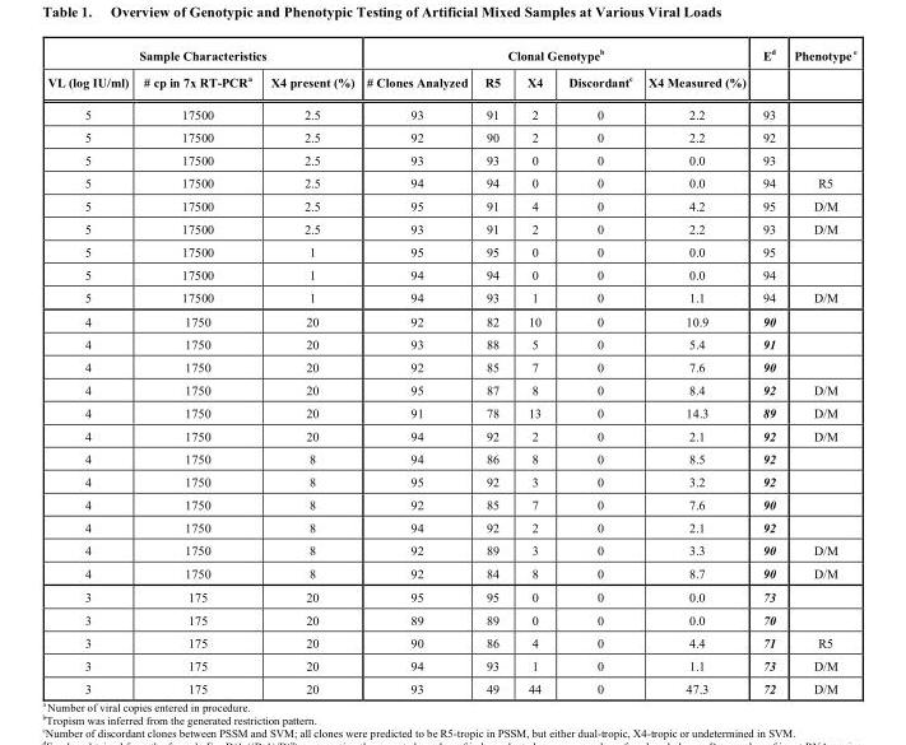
<table><thead><tr><td colspan="3">Sample Characteristics</td><td colspan="5">Clonal Genotype<sup>b</sup></td><td rowspan="2">E<sup>d</sup></td><td rowspan="2">Phenotype <sup>e</sup></td></tr><tr><td>VL (log IU/ml)</td><td># cp in 7x RT-PCR<sup>a</sup></td><td>X4 present (%)</td><td># Clones Analyzed</td><td>R5</td><td>X4</td><td>Discordant<sup>c</sup></td><td>X4 Measured (%)</td></tr></thead><tbody><tr><td>5</td><td>17500</td><td>2.5</td><td>93</td><td>91</td><td>2</td><td>0</td><td>2.2</td><td>93</td><td></td></tr><tr><td>5</td><td>17500</td><td>2.5</td><td>92</td><td>90</td><td>2</td><td>0</td><td>2.2</td><td>92</td><td></td></tr><tr><td>5</td><td>17500</td><td>2.5</td><td>93</td><td>93</td><td>0</td><td>0</td><td>0.0</td><td>93</td><td></td></tr><tr><td>5</td><td>17500</td><td>2.5</td><td>94</td><td>94</td><td>0</td><td>0</td><td>0.0</td><td>94</td><td>R5</td></tr><tr><td>5</td><td>17500</td><td>2.5</td><td>95</td><td>91</td><td>4</td><td>0</td><td>4.2</td><td>95</td><td>D/M</td></tr><tr><td>5</td><td>17500</td><td>2.5</td><td>93</td><td>91</td><td>2</td><td>0</td><td>2.2</td><td>93</td><td>D/M</td></tr><tr><td>5</td><td>17500</td><td>1</td><td>95</td><td>95</td><td>0</td><td>0</td><td>0.0</td><td>95</td><td></td></tr><tr><td>5</td><td>17500</td><td>1</td><td>94</td><td>94</td><td>0</td><td>0</td><td>0.0</td><td>94</td><td></td></tr><tr><td>5</td><td>17500</td><td>1</td><td>94</td><td>93</td><td>1</td><td>0</td><td>1.1</td><td>94</td><td>D/M</td></tr><tr><td>4</td><td>1750</td><td>20</td><td>92</td><td>82</td><td>10</td><td>0</td><td>10.9</td><td>90</td><td></td></tr><tr><td>4</td><td>1750</td><td>20</td><td>93</td><td>88</td><td>5</td><td>0</td><td>5.4</td><td>91</td><td></td></tr><tr><td>4</td><td>1750</td><td>20</td><td>92</td><td>85</td><td>7</td><td>0</td><td>7.6</td><td>90</td><td></td></tr><tr><td>4</td><td>1750</td><td>20</td><td>95</td><td>87</td><td>8</td><td>0</td><td>8.4</td><td>92</td><td>D/M</td></tr><tr><td>4</td><td>1750</td><td>20</td><td>91</td><td>78</td><td>13</td><td>0</td><td>14.3</td><td>89</td><td>D/M</td></tr><tr><td>4</td><td>1750</td><td>20</td><td>94</td><td>92</td><td>2</td><td>0</td><td>2.1</td><td>92</td><td>D/M</td></tr><tr><td>4</td><td>1750</td><td>8</td><td>94</td><td>86</td><td>8</td><td>0</td><td>8.5</td><td>92</td><td></td></tr><tr><td>4</td><td>1750</td><td>8</td><td>95</td><td>92</td><td>3</td><td>0</td><td>3.2</td><td>92</td><td></td></tr><tr><td>4</td><td>1750</td><td>8</td><td>92</td><td>85</td><td>7</td><td>0</td><td>7.6</td><td>90</td><td></td></tr><tr><td>4</td><td>1750</td><td>8</td><td>94</td><td>92</td><td>2</td><td>0</td><td>2.1</td><td>92</td><td></td></tr><tr><td>4</td><td>1750</td><td>8</td><td>92</td><td>89</td><td>3</td><td>0</td><td>3.3</td><td>90</td><td>D/M</td></tr><tr><td>4</td><td>1750</td><td>8</td><td>92</td><td>84</td><td>8</td><td>0</td><td>8.7</td><td>90</td><td>D/M</td></tr><tr><td>3</td><td>175</td><td>20</td><td>95</td><td>95</td><td>0</td><td>0</td><td>0.0</td><td>73</td><td></td></tr><tr><td>3</td><td>175</td><td>20</td><td>89</td><td>89</td><td>0</td><td>0</td><td>0.0</td><td>70</td><td></td></tr><tr><td>3</td><td>175</td><td>20</td><td>90</td><td>86</td><td>4</td><td>0</td><td>4.4</td><td>71</td><td>R5</td></tr><tr><td>3</td><td>175</td><td>20</td><td>94</td><td>93</td><td>1</td><td>0</td><td>1.1</td><td>73</td><td>D/M</td></tr><tr><td>3</td><td>175</td><td>20</td><td>93</td><td>49</td><td>44</td><td>0</td><td>47.3</td><td>72</td><td>D/M</td></tr></tbody></table>